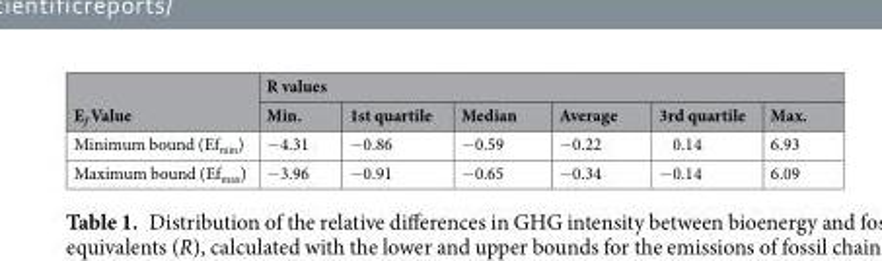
<table><thead><tr><td rowspan="2">E<sub>f</sub> Value</td><td colspan="6">R values</td></tr><tr><td>Min.</td><td>1st quartile</td><td>Median</td><td>Average</td><td>3rd quartile</td><td>Max.</td></tr></thead><tbody><tr><td>Minimum bound (Ef<sub>min</sub>)</td><td>−4.31</td><td>−0.86</td><td>−0.59</td><td>−0.22</td><td>0.14</td><td>6.93</td></tr><tr><td>Maximum bound (Ef<sub>max</sub>)</td><td>−3.96</td><td>−0.91</td><td>−0.65</td><td>−0.34</td><td>−0.14</td><td>6.09</td></tr></tbody></table>